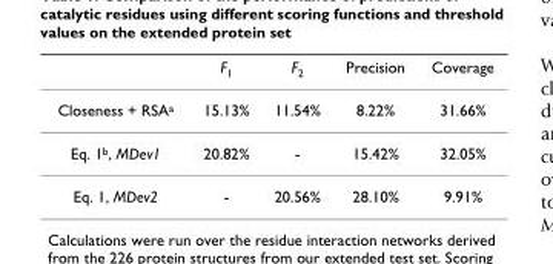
<table><thead><tr><td></td><td>F<sub>1</sub></td><td>F<sub>2</sub></td><td>Precision</td><td>Coverage</td></tr></thead><tbody><tr><td>Closeness + RSA<sup>a</sup></td><td>15.13%</td><td>11.54%</td><td>8.22%</td><td>31.66%</td></tr><tr><td>Eq. 1<sup>b</sup>, MDev1</td><td>20.82%</td><td>-</td><td>15.42%</td><td>32.05%</td></tr><tr><td>Eq. 1, MDev2</td><td>-</td><td>20.56%</td><td>28.10%</td><td>9.91%</td></tr></tbody></table>